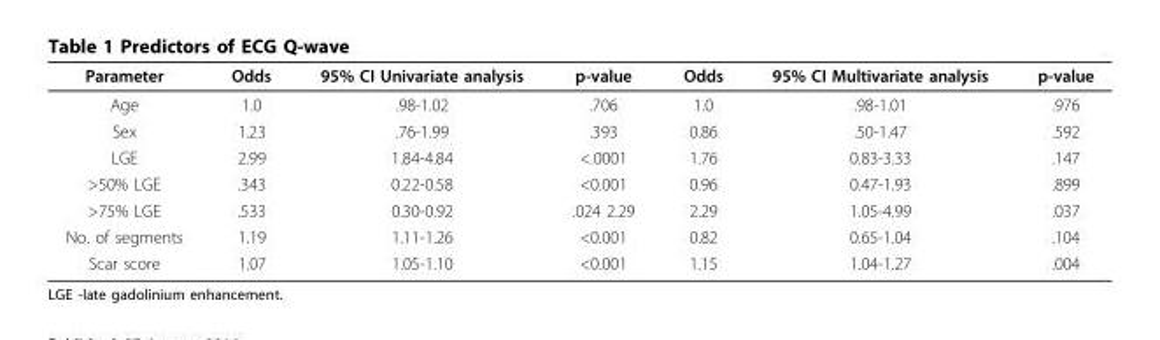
<table><thead><tr><td>Parameter</td><td>Odds</td><td>95% CI Univariate analysis</td><td>p-value</td><td>Odds</td><td>95% CI Multivariate analysis</td><td>p-value</td></tr></thead><tbody><tr><td>Age</td><td>1.0</td><td>.98-1.02</td><td>.706</td><td>1.0</td><td>.98-1.01</td><td>.976</td></tr><tr><td>Sex</td><td>1.23</td><td>.76-1.99</td><td>.393</td><td>0.86</td><td>.50-1.47</td><td>.592</td></tr><tr><td>LGE</td><td>2.99</td><td>1.84-4.84</td><td>&lt;.0001</td><td>1.76</td><td>0.83-3.33</td><td>.147</td></tr><tr><td>&gt;50% LGE</td><td>.343</td><td>0.22-0.58</td><td>&lt;0.001</td><td>0.96</td><td>0.47-1.93</td><td>.899</td></tr><tr><td>&gt;75% LGE</td><td>.533</td><td>0.30-0.92</td><td>.024 2.29</td><td>2.29</td><td>1.05-4.99</td><td>.037</td></tr><tr><td>No. of segments</td><td>1.19</td><td>1.11-1.26</td><td>&lt;0.001</td><td>0.82</td><td>0.65-1.04</td><td>.104</td></tr><tr><td>Scar score</td><td>1.07</td><td>1.05-1.10</td><td>&lt;0.001</td><td>1.15</td><td>1.04-1.27</td><td>.004</td></tr></tbody></table>